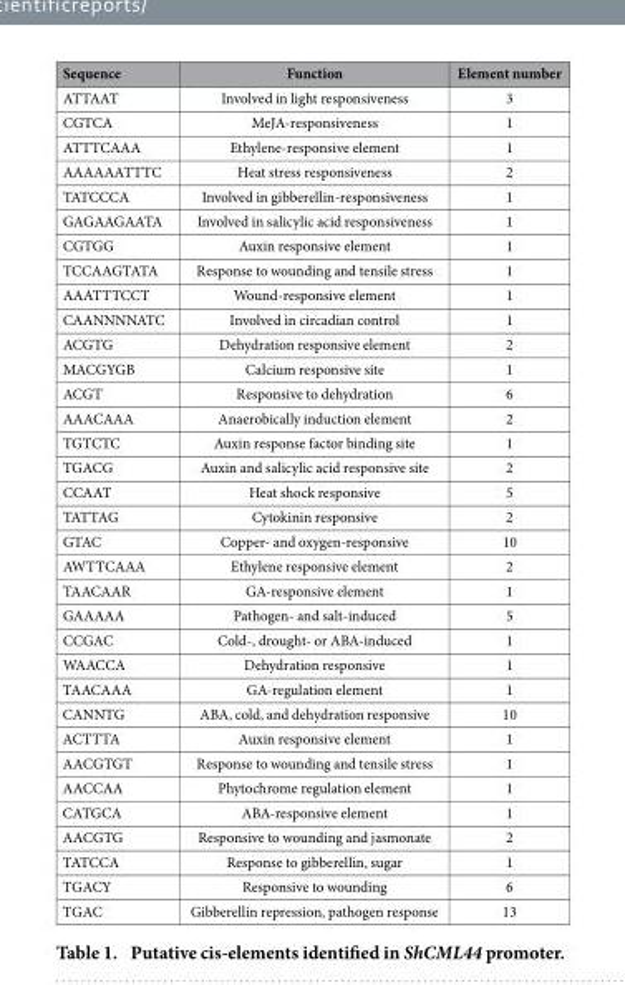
<table><thead><tr><td>Sequence</td><td>Function</td><td>Element number</td></tr></thead><tbody><tr><td>ATTAAT</td><td>Involved in light responsiveness</td><td>3</td></tr><tr><td>CGTCA</td><td>MeJA-responsiveness</td><td>1</td></tr><tr><td>ATTTCAAA</td><td>Ethylene-responsive element</td><td>1</td></tr><tr><td>AAAAAATTTC</td><td>Heat stress responsiveness</td><td>2</td></tr><tr><td>TATCCCA</td><td>Involved in gibberellin-responsiveness</td><td>1</td></tr><tr><td>GAGAAGAATA</td><td>Involved in salicylic acid responsiveness</td><td>1</td></tr><tr><td>CGTGG</td><td>Auxin responsive element</td><td>1</td></tr><tr><td>TCCAAGTATA</td><td>Response to wounding and tensile stress</td><td>1</td></tr><tr><td>AAATTTCCT</td><td>Wound-responsive element</td><td>1</td></tr><tr><td>CAANNNNATC</td><td>Involved in circadian control</td><td>1</td></tr><tr><td>ACGTG</td><td>Dehydration responsive element</td><td>2</td></tr><tr><td>MACGYGB</td><td>Calcium responsive site</td><td>1</td></tr><tr><td>ACGT</td><td>Responsive to dehydration</td><td>6</td></tr><tr><td>AAACAAA</td><td>Anaerobically induction element</td><td>2</td></tr><tr><td>TGTCTC</td><td>Auxin response factor binding site</td><td>1</td></tr><tr><td>TGACG</td><td>Auxin and salicylic acid responsive site</td><td>2</td></tr><tr><td>CCAAT</td><td>Heat shock responsive</td><td>5</td></tr><tr><td>TATTAG</td><td>Cytokinin responsive</td><td>2</td></tr><tr><td>GTAC</td><td>Copper- and oxygen-responsive</td><td>10</td></tr><tr><td>AWTTCAAA</td><td>Ethylene responsive element</td><td>2</td></tr><tr><td>TAACAAR</td><td>GA-responsive element</td><td>1</td></tr><tr><td>GAAAAA</td><td>Pathogen- and salt-induced</td><td>5</td></tr><tr><td>CCGAC</td><td>Cold-, drought- or ABA-induced</td><td>1</td></tr><tr><td>WAACCA</td><td>Dehydration responsive</td><td>1</td></tr><tr><td>TAACAAA</td><td>GA-regulation element</td><td>1</td></tr><tr><td>CANNTG</td><td>ABA, cold, and dehydration responsive</td><td>10</td></tr><tr><td>ACTTTA</td><td>Auxin responsive element</td><td>1</td></tr><tr><td>AACGTGT</td><td>Response to wounding and tensile stress</td><td>1</td></tr><tr><td>AACCAA</td><td>Phytochrome regulation element</td><td>1</td></tr><tr><td>CATGCA</td><td>ABA-responsive element</td><td>1</td></tr><tr><td>AACGTG</td><td>Responsive to wounding and jasmonate</td><td>2</td></tr><tr><td>TATCCA</td><td>Response to gibberellin, sugar</td><td>1</td></tr><tr><td>TGACY</td><td>Responsive to wounding</td><td>6</td></tr><tr><td>TGAC</td><td>Gibberellin repression, pathogen response</td><td>13</td></tr></tbody></table>